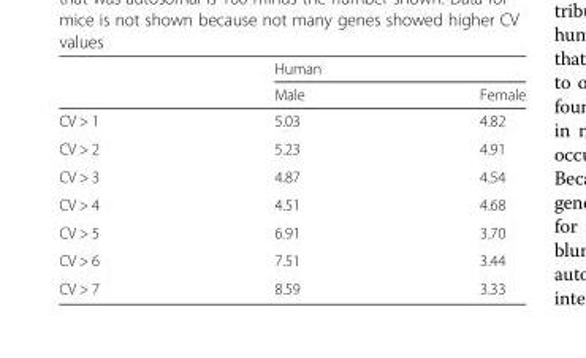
<table><thead><tr><td rowspan="2"></td><td colspan="2">Human</td></tr><tr><td>Male</td><td>Female</td></tr></thead><tbody><tr><td>CV &gt; 1</td><td>5.03</td><td>4.82</td></tr><tr><td>CV &gt; 2</td><td>5.23</td><td>4.91</td></tr><tr><td>CV &gt; 3</td><td>4.87</td><td>4.54</td></tr><tr><td>CV &gt; 4</td><td>4.51</td><td>4.68</td></tr><tr><td>CV &gt; 5</td><td>6.91</td><td>3.70</td></tr><tr><td>CV &gt; 6</td><td>7.51</td><td>3.44</td></tr><tr><td>CV &gt; 7</td><td>8.59</td><td>3.33</td></tr></tbody></table>